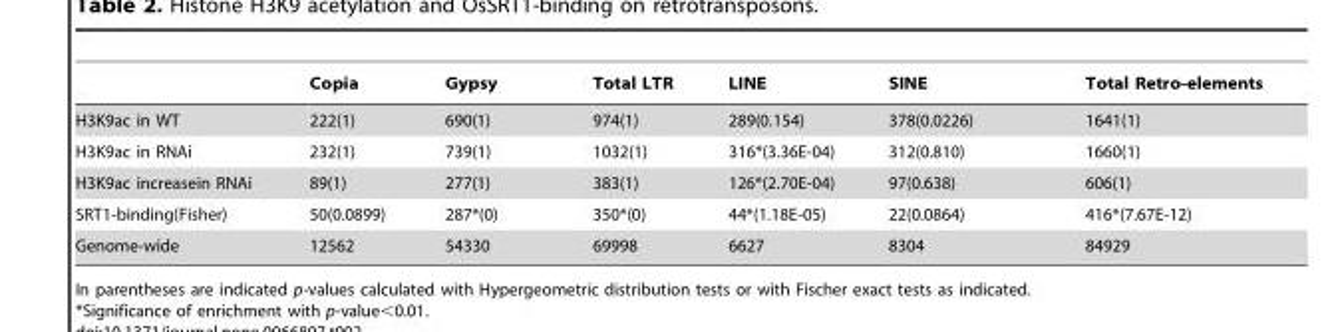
<table><thead><tr><td></td><td>Copia</td><td>Gypsy</td><td>Total LTR</td><td>LINE</td><td>SINE</td><td>Total Retro-elements</td></tr></thead><tbody><tr><td>H3K9ac in WT</td><td>222(1)</td><td>690(1)</td><td>974(1)</td><td>289(0.154)</td><td>378(0.0226)</td><td>1641(1)</td></tr><tr><td>H3K9ac in RNAi</td><td>232(1)</td><td>739(1)</td><td>1032(1)</td><td>316*(3.36E-04)</td><td>312(0.810)</td><td>1660(1)</td></tr><tr><td>H3K9ac increasein RNAi</td><td>89(1)</td><td>277(1)</td><td>383(1)</td><td>126*(2.70E-04)</td><td>97(0.638)</td><td>606(1)</td></tr><tr><td>SRT1-binding(Fisher)</td><td>50(0.0899)</td><td>287*(0)</td><td>350*(0)</td><td>44*(1.18E-05)</td><td>22(0.0864)</td><td>416*(7.67E-12)</td></tr><tr><td>Genome-wide</td><td>12562</td><td>54330</td><td>69998</td><td>6627</td><td>8304</td><td>84929</td></tr></tbody></table>